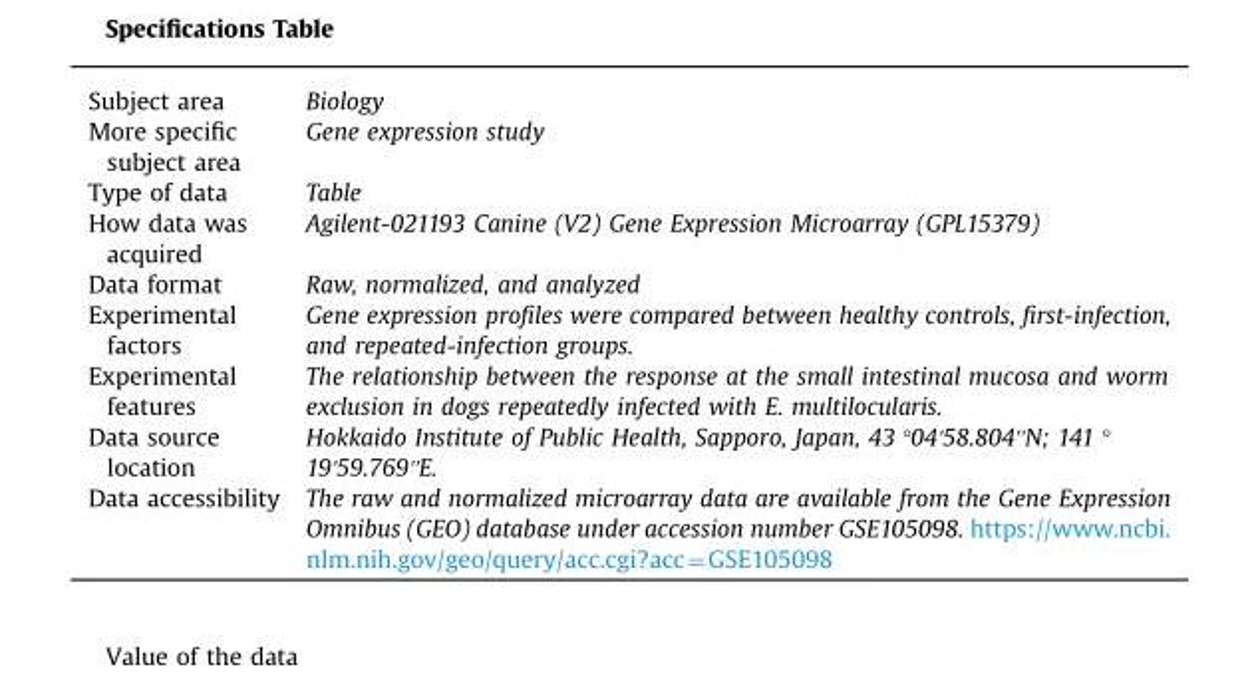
<table><thead><tr><td>Subject area</td><td>Biology</td></tr></thead><tbody><tr><td>More specific subject area</td><td>Gene expression study</td></tr><tr><td>Type of data</td><td>Table</td></tr><tr><td>How data was acquired</td><td>Agilent-021193 Canine (V2) Gene Expression Microarray (GPL15379)</td></tr><tr><td>Data format</td><td>Raw, normalized, and analyzed</td></tr><tr><td>Experimental factors</td><td>Gene expression profiles were compared between healthy controls, first-infection, and repeated-infection groups.</td></tr><tr><td>Experimental features</td><td>The relationship between the response at the small intestinal mucosa and worm exclusion in dogs repeatedly infected with E. multilocularis.</td></tr><tr><td>Data source location</td><td>Hokkaido Institute of Public Health, Sapporo, Japan, 43 °04&#x27;58.804&#x27;&#x27;N; 141 ° 19&#x27;59.769&#x27;&#x27;E.</td></tr><tr><td>Data accessibility</td><td>The raw and normalized microarray data are available from the Gene Expression Omnibus (GEO) database under accession number GSE105098. https://www.ncbi. nlm.nih.gov/geo/query/acc.cgi?acc=GSE105098</td></tr></tbody></table>